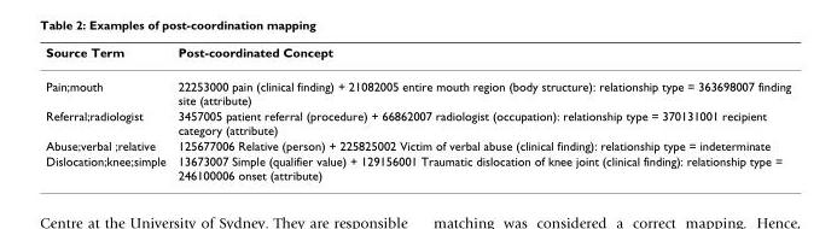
<table><thead><tr><td>Source Term</td><td>Post-coordinated Concept</td></tr></thead><tbody><tr><td>Pain;mouth</td><td>22253000 pain (clinical finding) + 21082005 entire mouth region (body structure): relationship type = 363698007 finding site (attribute)</td></tr><tr><td>Referral;radiologist</td><td>3457005 patient referral (procedure) + 66862007 radiologist (occupation): relationship type = 370131001 recipient category (attribute)</td></tr><tr><td>Abuse;verbal ;relative</td><td>125677006 Relative (person) + 225825002 Victim of verbal abuse (clinical finding): relationship type = indeterminate</td></tr><tr><td>Dislocation;knee;simple</td><td>13673007 Simple (qualifier value) + 129156001 Traumatic dislocation of knee joint (clinical finding): relationship type = 246100006 onset (attribute)</td></tr></tbody></table>